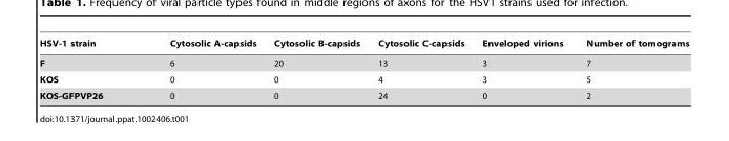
<table><thead><tr><td>HSV-1 strain</td><td>Cytosolic A-capsids</td><td>Cytosolic B-capsids</td><td>Cytosolic C-capsids</td><td>Enveloped virions</td><td>Number of tomograms</td></tr></thead><tbody><tr><td>F</td><td>6</td><td>20</td><td>13</td><td>3</td><td>7</td></tr><tr><td>KOS</td><td>0</td><td>0</td><td>4</td><td>3</td><td>5</td></tr><tr><td>KOS-GFPVP26</td><td>0</td><td>0</td><td>24</td><td>0</td><td>2</td></tr></tbody></table>